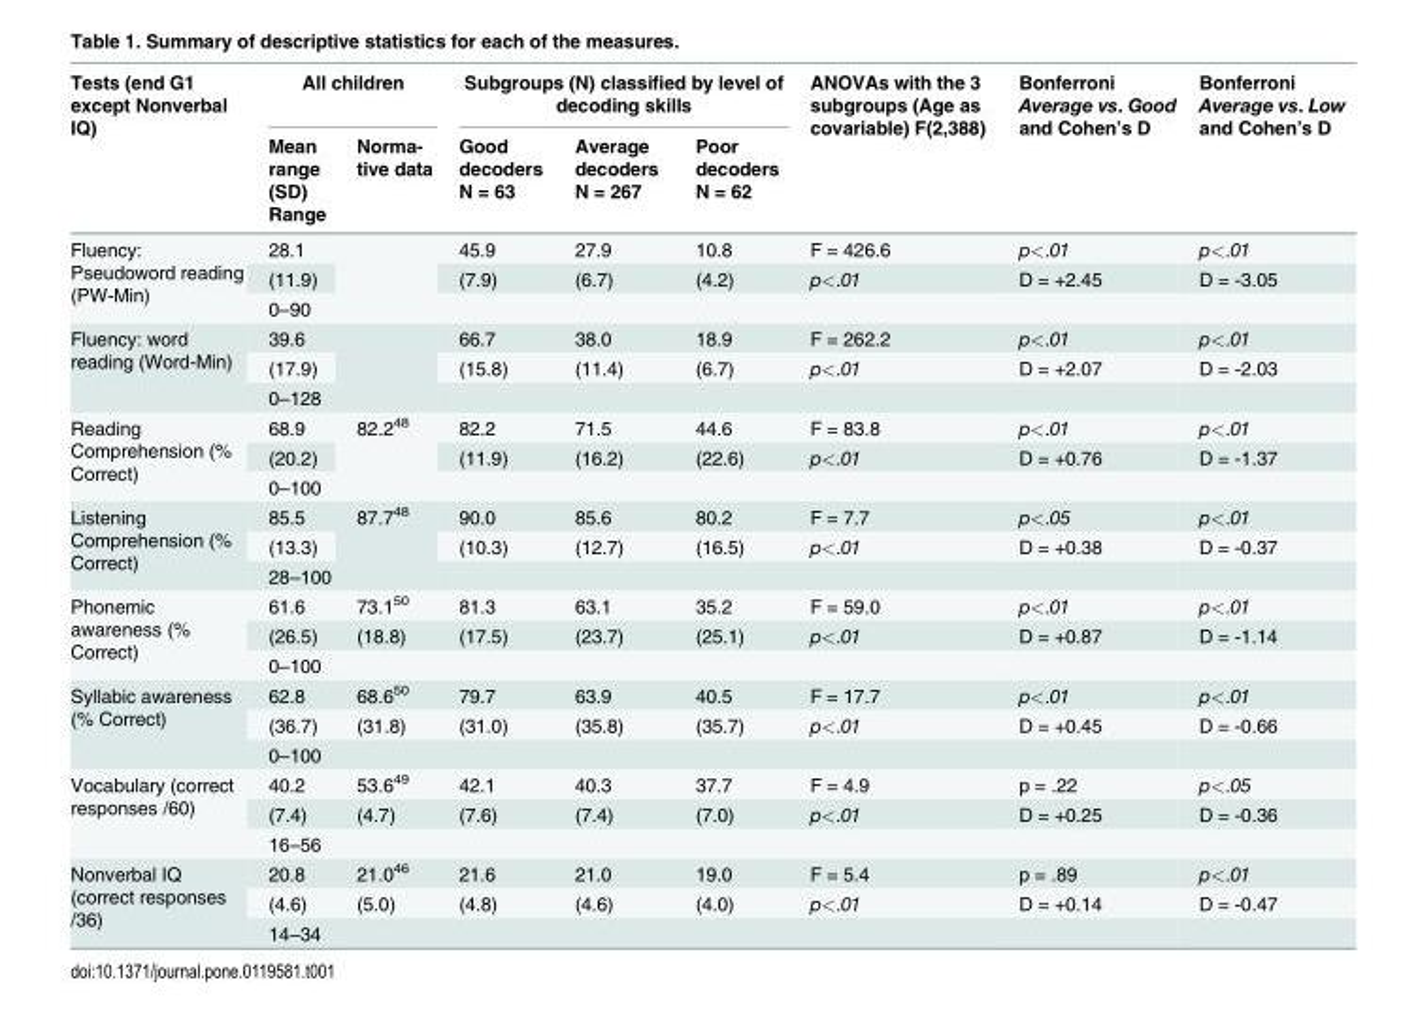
<table><thead><tr><td rowspan="3">Tests (end G1 except Nonverbal IQ)</td><td colspan="2">All children</td><td colspan="3">Subgroups (N) classified by level of decoding skills</td><td rowspan="3">ANOVAs with the 3 subgroups (Age as covariable) F(2,388)</td><td rowspan="3">Bonferroni Average vs. Good and Cohen’s D</td><td rowspan="3">Bonferroni Average vs. Low and Cohen’s D</td></tr><tr><td rowspan="2">Mean range (SD) Range</td><td rowspan="2">Norma- tive data</td><td rowspan="2">Good decoders N = 63</td><td rowspan="2">Average decoders N = 267</td><td rowspan="2">Poor decoders N = 62</td></tr><tr></tr></thead><tbody><tr><td rowspan="3">Fluency: Pseudoword reading (PW-Min)</td><td>28.1</td><td rowspan="3"></td><td>45.9</td><td>27.9</td><td>10.8</td><td>F = 426.6</td><td>p&lt;.01</td><td>p&lt;.01</td></tr><tr><td>(11.9)</td><td>(7.9)</td><td>(6.7)</td><td>(4.2)</td><td>p&lt;.01</td><td>D = +2.45</td><td>D = -3.05</td></tr><tr><td>0–90</td><td></td><td></td><td></td><td></td><td></td><td></td></tr><tr><td rowspan="3">Fluency: word reading (Word-Min)</td><td>39.6</td><td rowspan="3"></td><td>66.7</td><td>38.0</td><td>18.9</td><td>F = 262.2</td><td>p&lt;.01</td><td>p&lt;.01</td></tr><tr><td>(17.9)</td><td>(15.8)</td><td>(11.4)</td><td>(6.7)</td><td>p&lt;.01</td><td>D = +2.07</td><td>D = -2.03</td></tr><tr><td>0–128</td><td></td><td></td><td></td><td></td><td></td><td></td></tr><tr><td rowspan="3">Reading Comprehension (% Correct)</td><td>68.9</td><td rowspan="3">82.2<sup>48</sup></td><td>82.2</td><td>71.5</td><td>44.6</td><td>F = 83.8</td><td>p&lt;.01</td><td>p&lt;.01</td></tr><tr><td>(20.2)</td><td>(11.9)</td><td>(16.2)</td><td>(22.6)</td><td>p&lt;.01</td><td>D = +0.76</td><td>D = -1.37</td></tr><tr><td>0–100</td><td></td><td></td><td></td><td></td><td></td><td></td></tr><tr><td rowspan="3">Listening Comprehension (% Correct)</td><td>85.5</td><td rowspan="3">87.7<sup>48</sup></td><td>90.0</td><td>85.6</td><td>80.2</td><td>F = 7.7</td><td>p&lt;.05</td><td>p&lt;.01</td></tr><tr><td>(13.3)</td><td>(10.3)</td><td>(12.7)</td><td>(16.5)</td><td>p&lt;.01</td><td>D = +0.38</td><td>D = -0.37</td></tr><tr><td>28–100</td><td></td><td></td><td></td><td></td><td></td><td></td></tr><tr><td rowspan="3">Phonemic awareness (% Correct)</td><td>61.6</td><td>73.1<sup>50</sup></td><td>81.3</td><td>63.1</td><td>35.2</td><td>F = 59.0</td><td>p&lt;.01</td><td>p&lt;.01</td></tr><tr><td>(26.5)</td><td>(18.8)</td><td>(17.5)</td><td>(23.7)</td><td>(25.1)</td><td>p&lt;.01</td><td>D = +0.87</td><td>D = -1.14</td></tr><tr><td>0–100</td><td></td><td></td><td></td><td></td><td></td><td></td><td></td></tr><tr><td rowspan="3">Syllabic awareness (% Correct)</td><td>62.8</td><td>68.6<sup>50</sup></td><td>79.7</td><td>63.9</td><td>40.5</td><td>F = 17.7</td><td>p&lt;.01</td><td>p&lt;.01</td></tr><tr><td>(36.7)</td><td>(31.8)</td><td>(31.0)</td><td>(35.8)</td><td>(35.7)</td><td>p&lt;.01</td><td>D = +0.45</td><td>D = -0.66</td></tr><tr><td>0–100</td><td></td><td></td><td></td><td></td><td></td><td></td><td></td></tr><tr><td rowspan="3">Vocabulary (correct responses /60)</td><td>40.2</td><td>53.6<sup>49</sup></td><td>42.1</td><td>40.3</td><td>37.7</td><td>F = 4.9</td><td>p = .22</td><td>p&lt;.05</td></tr><tr><td>(7.4)</td><td>(4.7)</td><td>(7.6)</td><td>(7.4)</td><td>(7.0)</td><td>p&lt;.01</td><td>D = +0.25</td><td>D = -0.36</td></tr><tr><td>16–56</td><td></td><td></td><td></td><td></td><td></td><td></td><td></td></tr><tr><td rowspan="3">Nonverbal IQ (correct responses /36)</td><td>20.8</td><td>21.0<sup>46</sup></td><td>21.6</td><td>21.0</td><td>19.0</td><td>F = 5.4</td><td>p = .89</td><td>p&lt;.01</td></tr><tr><td>(4.6)</td><td>(5.0)</td><td>(4.8)</td><td>(4.6)</td><td>(4.0)</td><td>p&lt;.01</td><td>D = +0.14</td><td>D = -0.47</td></tr><tr><td>14–34</td><td></td><td></td><td></td><td></td><td></td><td></td><td></td></tr></tbody></table>